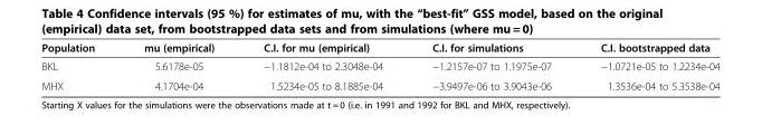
<table><thead><tr><td>Population</td><td>mu (empirical)</td><td>C.I. for mu (empirical)</td><td>C.I. for simulations</td><td>C.I. bootstrapped data</td></tr></thead><tbody><tr><td>BKL</td><td>5.6178e-05</td><td>−1.1812e-04 to 2.3048e-04</td><td>−1.2157e-07 to 1.1975e-07</td><td>−1.0721e-05 to 1.2234e-04</td></tr><tr><td>MHX</td><td>4.1704e-04</td><td>1.5234e-05 to 8.1885e-04</td><td>−3.9497e-06 to 3.9043e-06</td><td>1.3536e-04 to 5.3538e-04</td></tr></tbody></table>